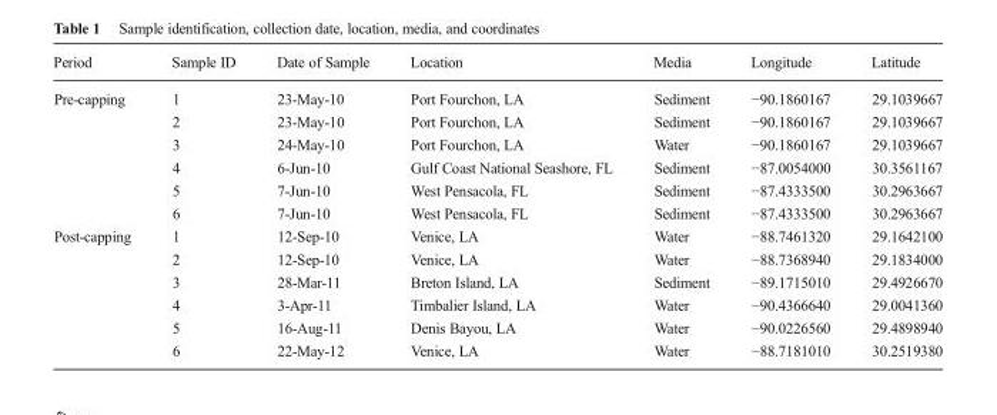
<table><thead><tr><td>Period</td><td>Sample ID</td><td>Date of Sample</td><td>Location</td><td>Media</td><td>Longitude</td><td>Latitude</td></tr></thead><tbody><tr><td rowspan="6">Pre-capping</td><td>1</td><td>23-May-10</td><td>Port Fourchon, LA</td><td>Sediment</td><td>−90.1860167</td><td>29.1039667</td></tr><tr><td>2</td><td>23-May-10</td><td>Port Fourchon, LA</td><td>Sediment</td><td>−90.1860167</td><td>29.1039667</td></tr><tr><td>3</td><td>24-May-10</td><td>Port Fourchon, LA</td><td>Water</td><td>−90.1860167</td><td>29.1039667</td></tr><tr><td>4</td><td>6-Jun-10</td><td>Gulf Coast National Seashore, FL</td><td>Sediment</td><td>−87.0054000</td><td>30.3561167</td></tr><tr><td>5</td><td>7-Jun-10</td><td>West Pensacola, FL</td><td>Sediment</td><td>−87.4333500</td><td>30.2963667</td></tr><tr><td>6</td><td>7-Jun-10</td><td>West Pensacola, FL</td><td>Sediment</td><td>−87.4333500</td><td>30.2963667</td></tr><tr><td rowspan="6">Post-capping</td><td>1</td><td>12-Sep-10</td><td>Venice, LA</td><td>Water</td><td>−88.7461320</td><td>29.1642100</td></tr><tr><td>2</td><td>12-Sep-10</td><td>Venice, LA</td><td>Water</td><td>−88.7368940</td><td>29.1834000</td></tr><tr><td>3</td><td>28-Mar-11</td><td>Breton Island, LA</td><td>Sediment</td><td>−89.1715010</td><td>29.4926670</td></tr><tr><td>4</td><td>3-Apr-11</td><td>Timbalier Island, LA</td><td>Water</td><td>−90.4366640</td><td>29.0041360</td></tr><tr><td>5</td><td>16-Aug-11</td><td>Denis Bayou, LA</td><td>Water</td><td>−90.0226560</td><td>29.4898940</td></tr><tr><td>6</td><td>22-May-12</td><td>Venice, LA</td><td>Water</td><td>−88.7181010</td><td>30.2519380</td></tr></tbody></table>